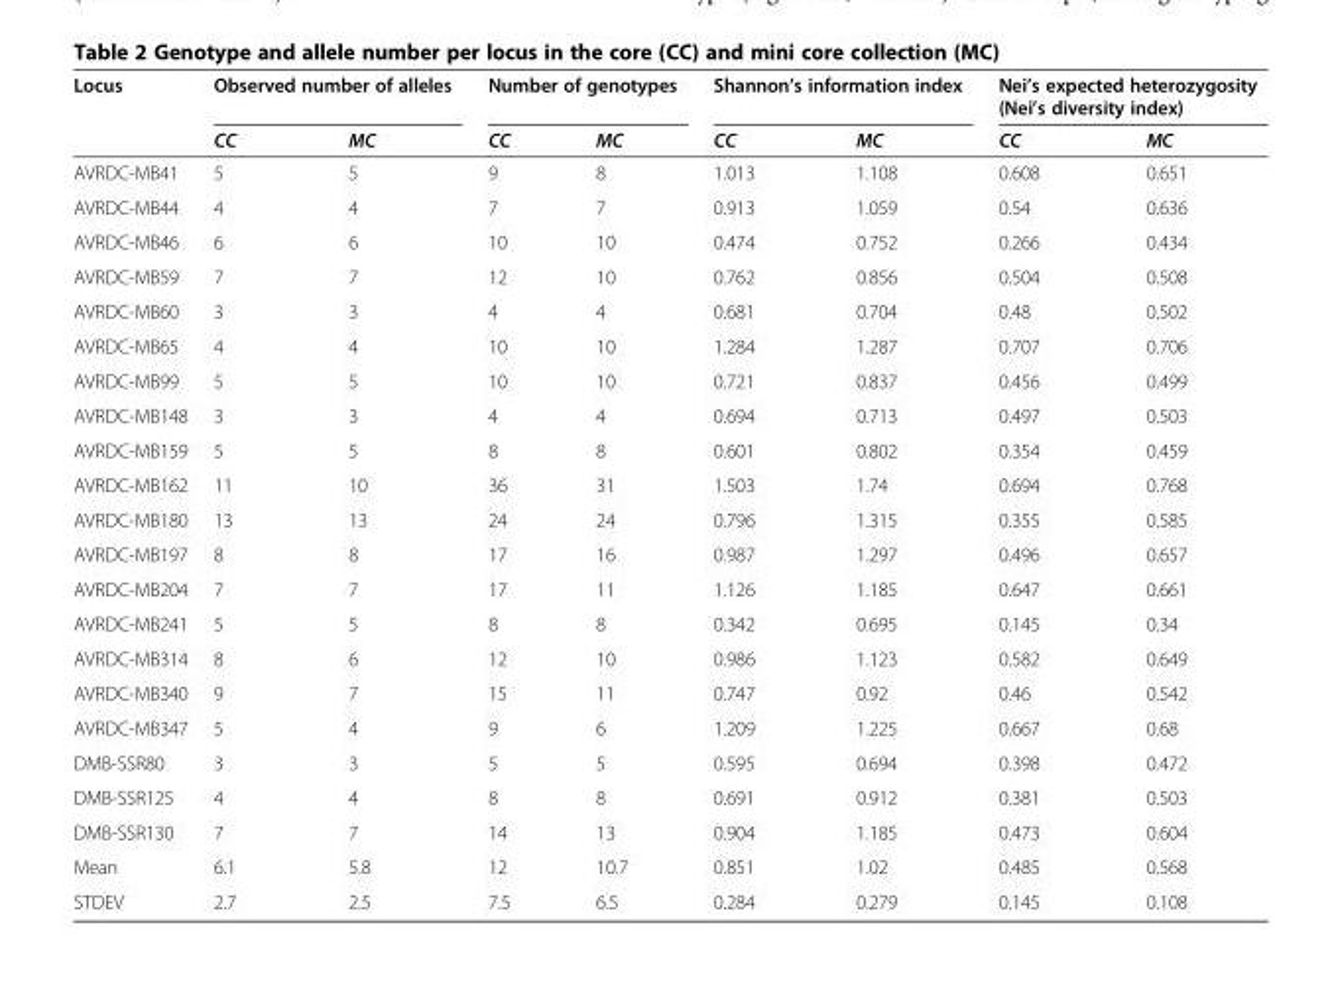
<table><thead><tr><td rowspan="2">Locus</td><td colspan="2">Observed number of alleles</td><td colspan="2">Number of genotypes</td><td colspan="2">Shannon’s information index</td><td colspan="2">Nei’s expected heterozygosity (Nei’s diversity index)</td></tr><tr><td>CC</td><td>MC</td><td>CC</td><td>MC</td><td>CC</td><td>MC</td><td>CC</td><td>MC</td></tr></thead><tbody><tr><td>AVRDC-MB41</td><td>5</td><td>5</td><td>9</td><td>8</td><td>1.013</td><td>1.108</td><td>0.608</td><td>0.651</td></tr><tr><td>AVRDC-MB44</td><td>4</td><td>4</td><td>7</td><td>7</td><td>0.913</td><td>1.059</td><td>0.54</td><td>0.636</td></tr><tr><td>AVRDC-MB46</td><td>6</td><td>6</td><td>10</td><td>10</td><td>0.474</td><td>0.752</td><td>0.266</td><td>0.434</td></tr><tr><td>AVRDC-MB59</td><td>7</td><td>7</td><td>12</td><td>10</td><td>0.762</td><td>0.856</td><td>0.504</td><td>0.508</td></tr><tr><td>AVRDC-MB60</td><td>3</td><td>3</td><td>4</td><td>4</td><td>0.681</td><td>0.704</td><td>0.48</td><td>0.502</td></tr><tr><td>AVRDC-MB65</td><td>4</td><td>4</td><td>10</td><td>10</td><td>1.284</td><td>1.287</td><td>0.707</td><td>0.706</td></tr><tr><td>AVRDC-MB99</td><td>5</td><td>5</td><td>10</td><td>10</td><td>0.721</td><td>0.837</td><td>0.456</td><td>0.499</td></tr><tr><td>AVRDC-MB148</td><td>3</td><td>3</td><td>4</td><td>4</td><td>0.694</td><td>0.713</td><td>0.497</td><td>0.503</td></tr><tr><td>AVRDC-MB159</td><td>5</td><td>5</td><td>8</td><td>8</td><td>0.601</td><td>0.802</td><td>0.354</td><td>0.459</td></tr><tr><td>AVRDC-MB162</td><td>11</td><td>10</td><td>36</td><td>31</td><td>1.503</td><td>1.74</td><td>0.694</td><td>0.768</td></tr><tr><td>AVRDC-MB180</td><td>13</td><td>13</td><td>24</td><td>24</td><td>0.796</td><td>1.315</td><td>0.355</td><td>0.585</td></tr><tr><td>AVRDC-MB197</td><td>8</td><td>8</td><td>17</td><td>16</td><td>0.987</td><td>1.297</td><td>0.496</td><td>0.657</td></tr><tr><td>AVRDC-MB204</td><td>7</td><td>7</td><td>17</td><td>11</td><td>1.126</td><td>1.185</td><td>0.647</td><td>0.661</td></tr><tr><td>AVRDC-MB241</td><td>5</td><td>5</td><td>8</td><td>8</td><td>0.342</td><td>0.695</td><td>0.145</td><td>0.34</td></tr><tr><td>AVRDC-MB314</td><td>8</td><td>6</td><td>12</td><td>10</td><td>0.986</td><td>1.123</td><td>0.582</td><td>0.649</td></tr><tr><td>AVRDC-MB340</td><td>9</td><td>7</td><td>15</td><td>11</td><td>0.747</td><td>0.92</td><td>0.46</td><td>0.542</td></tr><tr><td>AVRDC-MB347</td><td>5</td><td>4</td><td>9</td><td>6</td><td>1.209</td><td>1.225</td><td>0.667</td><td>0.68</td></tr><tr><td>DMB-SSR80</td><td>3</td><td>3</td><td>5</td><td>5</td><td>0.595</td><td>0.694</td><td>0.398</td><td>0.472</td></tr><tr><td>DMB-SSR125</td><td>4</td><td>4</td><td>8</td><td>8</td><td>0.691</td><td>0.912</td><td>0.381</td><td>0.503</td></tr><tr><td>DMB-SSR130</td><td>7</td><td>7</td><td>14</td><td>13</td><td>0.904</td><td>1.185</td><td>0.473</td><td>0.604</td></tr><tr><td>Mean</td><td>6.1</td><td>5.8</td><td>12</td><td>10.7</td><td>0.851</td><td>1.02</td><td>0.485</td><td>0.568</td></tr><tr><td>STDEV</td><td>2.7</td><td>2.5</td><td>7.5</td><td>6.5</td><td>0.284</td><td>0.279</td><td>0.145</td><td>0.108</td></tr></tbody></table>